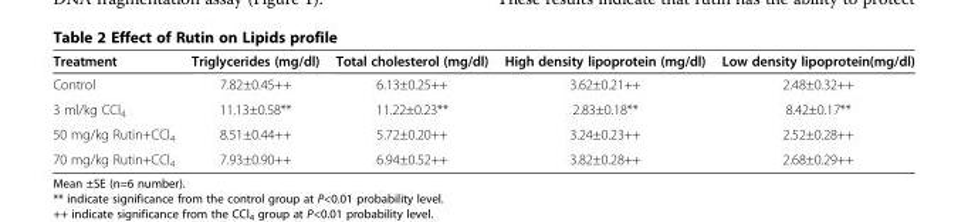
<table><thead><tr><td>Treatment</td><td>Triglycerides (mg/dl)</td><td>Total cholesterol (mg/dl)</td><td>High density lipoprotein (mg/dl)</td><td>Low density lipoprotein(mg/dl)</td></tr></thead><tbody><tr><td>Control</td><td>7.82±0.45++</td><td>6.13±0.25++</td><td>3.62±0.21++</td><td>2.48±0.32++</td></tr><tr><td>3 ml/kg CCl<sub>4</sub></td><td>11.13±0.58**</td><td>11.22±0.23**</td><td>2.83±0.18**</td><td>8.42±0.17**</td></tr><tr><td>50 mg/kg Rutin+CCl<sub>4</sub></td><td>8.51±0.44++</td><td>5.72±0.20++</td><td>3.24±0.23++</td><td>2.52±0.28++</td></tr><tr><td>70 mg/kg Rutin+CCl<sub>4</sub></td><td>7.93±0.90++</td><td>6.94±0.52++</td><td>3.82±0.28++</td><td>2.68±0.29++</td></tr></tbody></table>